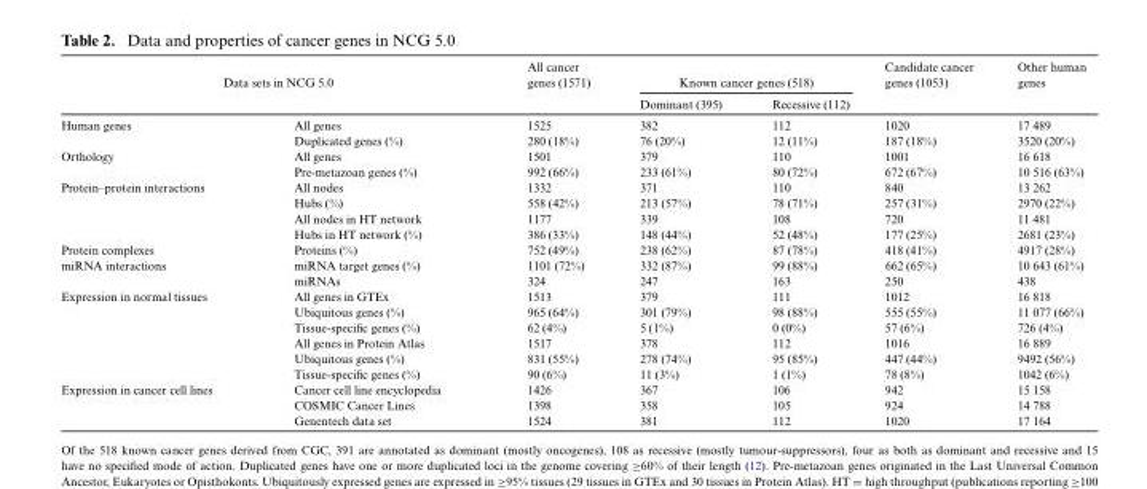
<table><thead><tr><td colspan="2">Data sets in NCG 5.0</td><td rowspan="2">All cancer genes (1571)</td><td colspan="2">Known cancer genes (518)</td><td rowspan="2">Candidate cancer genes (1053)</td><td rowspan="2">Other human genes</td></tr><tr><td></td><td></td><td>Dominant (395)</td><td>Recessive (112)</td></tr></thead><tbody><tr><td rowspan="2">Human genes</td><td>All genes</td><td>1525</td><td>382</td><td>112</td><td>1020</td><td>17 489</td></tr><tr><td>Duplicated genes (%)</td><td>280 (18%)</td><td>76 (20%)</td><td>12 (11%)</td><td>187 (18%)</td><td>3520 (20%)</td></tr><tr><td rowspan="2">Orthology</td><td>All genes</td><td>1501</td><td>379</td><td>110</td><td>1001</td><td>16 618</td></tr><tr><td>Pre-metazoan genes (%)</td><td>992 (66%)</td><td>233 (61%)</td><td>80 (72%)</td><td>672 (67%)</td><td>10 516 (63%)</td></tr><tr><td rowspan="4">Protein–protein interactions</td><td>All nodes</td><td>1332</td><td>371</td><td>110</td><td>840</td><td>13 262</td></tr><tr><td>Hubs (%)</td><td>558 (42%)</td><td>213 (57%)</td><td>78 (71%)</td><td>257 (31%)</td><td>2970 (22%)</td></tr><tr><td>All nodes in HT network</td><td>1177</td><td>339</td><td>108</td><td>720</td><td>11 481</td></tr><tr><td>Hubs in HT network (%)</td><td>386 (33%)</td><td>148 (44%)</td><td>52 (48%)</td><td>177 (25%)</td><td>2681 (23%)</td></tr><tr><td>Protein complexes</td><td>Proteins (%)</td><td>752 (49%)</td><td>238 (62%)</td><td>87 (78%)</td><td>418 (41%)</td><td>4917 (28%)</td></tr><tr><td rowspan="2">miRNA interactions</td><td>miRNA target genes (%)</td><td>1101 (72%)</td><td>332 (87%)</td><td>99 (88%)</td><td>662 (65%)</td><td>10 643 (61%)</td></tr><tr><td>miRNAs</td><td>324</td><td>247</td><td>163</td><td>250</td><td>438</td></tr><tr><td rowspan="6">Expression in normal tissues</td><td>All genes in GTEx</td><td>1513</td><td>379</td><td>111</td><td>1012</td><td>16 818</td></tr><tr><td>Ubiquitous genes (%)</td><td>965 (64%)</td><td>301 (79%)</td><td>98 (88%)</td><td>555 (55%)</td><td>11 077 (66%)</td></tr><tr><td>Tissue-specific genes (%)</td><td>62 (4%)</td><td>5 (1%)</td><td>0 (0%)</td><td>57 (6%)</td><td>726 (4%)</td></tr><tr><td>All genes in Protein Atlas</td><td>1517</td><td>378</td><td>112</td><td>1016</td><td>16 889</td></tr><tr><td>Ubiquitous genes (%)</td><td>831 (55%)</td><td>278 (74%)</td><td>95 (85%)</td><td>447 (44%)</td><td>9492 (56%)</td></tr><tr><td>Tissue-specific genes (%)</td><td>90 (6%)</td><td>11 (3%)</td><td>1 (1%)</td><td>78 (8%)</td><td>1042 (6%)</td></tr><tr><td rowspan="3">Expression in cancer cell lines</td><td>Cancer cell line encyclopedia</td><td>1426</td><td>367</td><td>106</td><td>942</td><td>15 158</td></tr><tr><td>COSMIC Cancer Lines</td><td>1398</td><td>358</td><td>105</td><td>924</td><td>14 788</td></tr><tr><td>Genentech data set</td><td>1524</td><td>381</td><td>112</td><td>1020</td><td>17 164</td></tr></tbody></table>